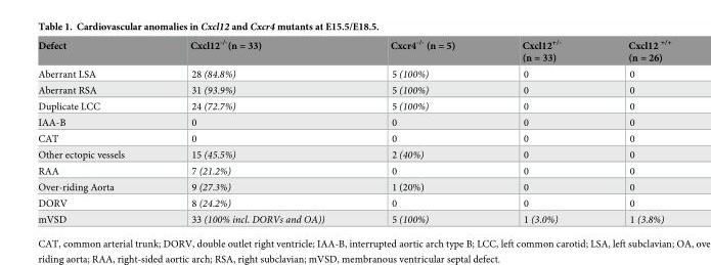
<table><thead><tr><td>Defect</td><td>Cxcl12<sup>-/-</sup>(n = 33)</td><td>Cxcr4<sup>-/-</sup> (n = 5)</td><td>Cxcl12<sup>+/-</sup> (n = 33)</td><td>Cxcl12 <sup>+/+</sup> (n = 26)</td></tr></thead><tbody><tr><td>Aberrant LSA</td><td>28 (84.8%)</td><td>5 (100%)</td><td>0</td><td>0</td></tr><tr><td>Aberrant RSA</td><td>31 (93.9%)</td><td>5 (100%)</td><td>0</td><td>0</td></tr><tr><td>Duplicate LCC</td><td>24 (72.7%)</td><td>5 (100%)</td><td>0</td><td>0</td></tr><tr><td>IAA-B</td><td>0</td><td>0</td><td>0</td><td>0</td></tr><tr><td>CAT</td><td>0</td><td>0</td><td>0</td><td>0</td></tr><tr><td>Other ectopic vessels</td><td>15 (45.5%)</td><td>2 (40%)</td><td>0</td><td>0</td></tr><tr><td>RAA</td><td>7 (21.2%)</td><td>0</td><td>0</td><td>0</td></tr><tr><td>Over-riding Aorta</td><td>9 (27.3%)</td><td>1 (20%)</td><td>0</td><td>0</td></tr><tr><td>DORV</td><td>8 (24.2%)</td><td>0</td><td>0</td><td>0</td></tr><tr><td>mVSD</td><td>33 (100% incl. DORVs and OA))</td><td>5 (100%)</td><td>1 (3.0%)</td><td>1 (3.8%)</td></tr></tbody></table>